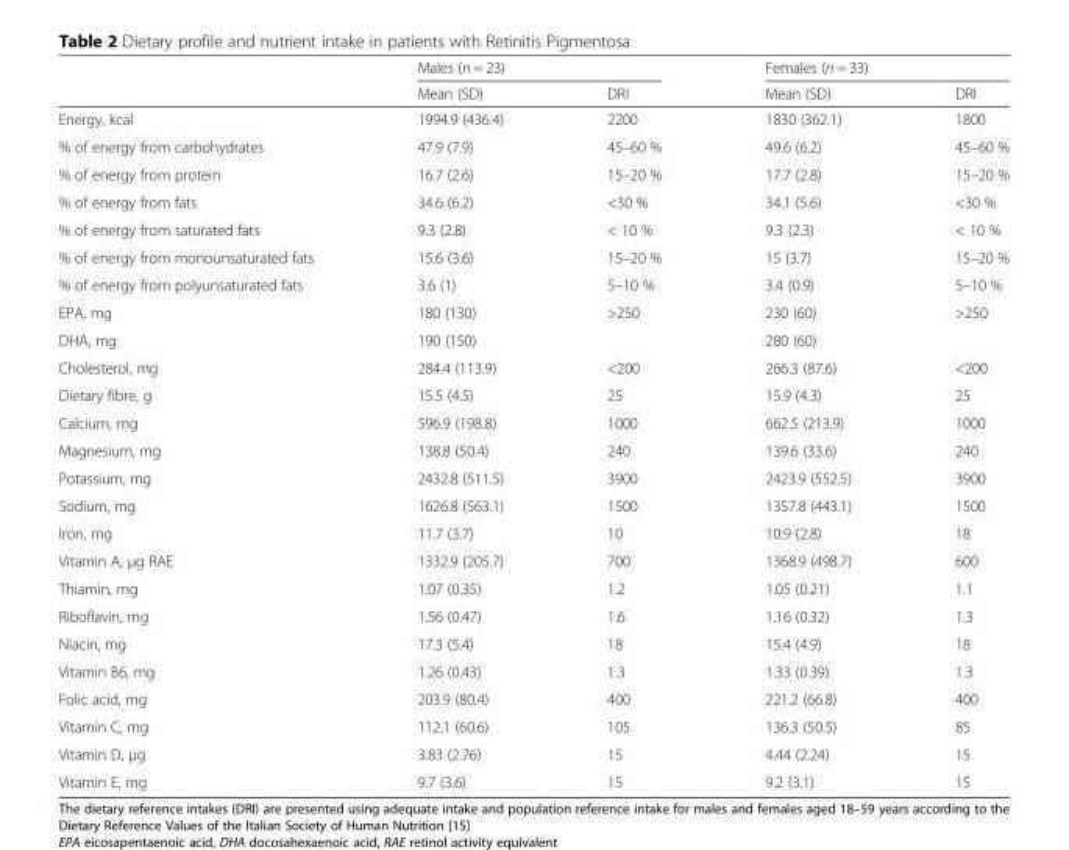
<table><thead><tr><td rowspan="2"></td><td colspan="2">Males (n = 23)</td><td colspan="2">Females (n = 33)</td></tr><tr><td>Mean (SD)</td><td>DRI</td><td>Mean (SD)</td><td>DRI</td></tr></thead><tbody><tr><td>Energy, kcal</td><td>1994.9 (436.4)</td><td>2200</td><td>1830 (362.1)</td><td>1800</td></tr><tr><td>% of energy from carbohydrates</td><td>47.9 (7.9)</td><td>45–60 %</td><td>49.6 (6.2)</td><td>45–60 %</td></tr><tr><td>% of energy from protein</td><td>16.7 (2.6)</td><td>15–20 %</td><td>17.7 (2.8)</td><td>15–20 %</td></tr><tr><td>% of energy from fats</td><td>34.6 (6.2)</td><td>&lt;30 %</td><td>34.1 (5.6)</td><td>&lt;30 %</td></tr><tr><td>% of energy from saturated fats</td><td>9.3 (2.8)</td><td>&lt; 10 %</td><td>9.3 (2.3)</td><td>&lt; 10 %</td></tr><tr><td>% of energy from monounsaturated fats</td><td>15.6 (3.6)</td><td>15–20 %</td><td>15 (3.7)</td><td>15–20 %</td></tr><tr><td>% of energy from polyunsaturated fats</td><td>3.6 (1)</td><td>5–10 %</td><td>3.4 (0.9)</td><td>5–10 %</td></tr><tr><td>EPA, mg</td><td>180 (130)</td><td rowspan="2">&gt;250</td><td>230 (60)</td><td rowspan="2">&gt;250</td></tr><tr><td>DHA, mg</td><td>190 (150)</td><td>280 (60)</td></tr><tr><td>Cholesterol, mg</td><td>284.4 (113.9)</td><td>&lt;200</td><td>266.3 (87.6)</td><td>&lt;200</td></tr><tr><td>Dietary fibre, g</td><td>15.5 (4.5)</td><td>25</td><td>15.9 (4.3)</td><td>25</td></tr><tr><td>Calcium, mg</td><td>596.9 (198.8)</td><td>1000</td><td>662.5 (213.9)</td><td>1000</td></tr><tr><td>Magnesium, mg</td><td>138.8 (50.4)</td><td>240</td><td>139.6 (33.6)</td><td>240</td></tr><tr><td>Potassium, mg</td><td>2432.8 (511.5)</td><td>3900</td><td>2423.9 (552.5)</td><td>3900</td></tr><tr><td>Sodium, mg</td><td>1626.8 (563.1)</td><td>1500</td><td>1357.8 (443.1)</td><td>1500</td></tr><tr><td>Iron, mg</td><td>11.7 (3.7)</td><td>10</td><td>10.9 (2.8)</td><td>18</td></tr><tr><td>Vitamin A, μg RAE</td><td>1332.9 (205.7)</td><td>700</td><td>1368.9 (498.7)</td><td>600</td></tr><tr><td>Thiamin, mg</td><td>1.07 (0.35)</td><td>1.2</td><td>1.05 (0.21)</td><td>1.1</td></tr><tr><td>Riboflavin, mg</td><td>1.56 (0.47)</td><td>1.6</td><td>1.16 (0.32)</td><td>1.3</td></tr><tr><td>Niacin, mg</td><td>17.3 (5.4)</td><td>18</td><td>15.4 (4.9)</td><td>18</td></tr><tr><td>Vitamin B6, mg</td><td>1.26 (0.43)</td><td>1.3</td><td>1.33 (0.39)</td><td>1.3</td></tr><tr><td>Folic acid, mg</td><td>203.9 (80.4)</td><td>400</td><td>221.2 (66.8)</td><td>400</td></tr><tr><td>Vitamin C, mg</td><td>112.1 (60.6)</td><td>105</td><td>136.3 (50.5)</td><td>85</td></tr><tr><td>Vitamin D, μg</td><td>3.83 (2.76)</td><td>15</td><td>4.44 (2.24)</td><td>15</td></tr><tr><td>Vitamin E, mg</td><td>9.7 (3.6)</td><td>15</td><td>9.2 (3.1)</td><td>15</td></tr></tbody></table>